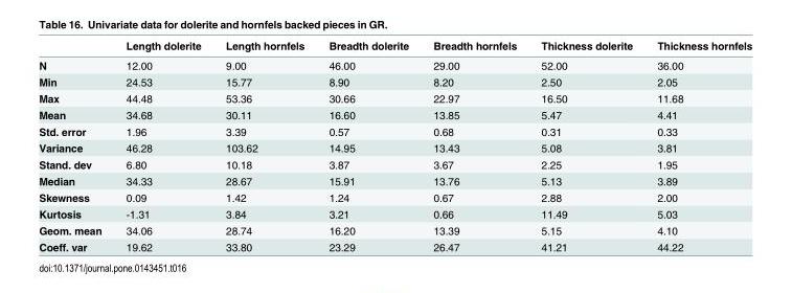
<table><thead><tr><td></td><td>Length dolerite</td><td>Length hornfels</td><td>Breadth dolerite</td><td>Breadth hornfels</td><td>Thickness dolerite</td><td>Thickness hornfels</td></tr></thead><tbody><tr><td>N</td><td>12.00</td><td>9.00</td><td>46.00</td><td>29.00</td><td>52.00</td><td>36.00</td></tr><tr><td>Min</td><td>24.53</td><td>15.77</td><td>8.90</td><td>8.20</td><td>2.50</td><td>2.05</td></tr><tr><td>Max</td><td>44.48</td><td>53.36</td><td>30.66</td><td>22.97</td><td>16.50</td><td>11.68</td></tr><tr><td>Mean</td><td>34.68</td><td>30.11</td><td>16.60</td><td>13.85</td><td>5.47</td><td>4.41</td></tr><tr><td>Std. error</td><td>1.96</td><td>3.39</td><td>0.57</td><td>0.68</td><td>0.31</td><td>0.33</td></tr><tr><td>Variance</td><td>46.28</td><td>103.62</td><td>14.95</td><td>13.43</td><td>5.08</td><td>3.81</td></tr><tr><td>Stand. dev</td><td>6.80</td><td>10.18</td><td>3.87</td><td>3.67</td><td>2.25</td><td>1.95</td></tr><tr><td>Median</td><td>34.33</td><td>28.67</td><td>15.91</td><td>13.76</td><td>5.13</td><td>3.89</td></tr><tr><td>Skewness</td><td>0.09</td><td>1.42</td><td>1.24</td><td>0.67</td><td>2.88</td><td>2.00</td></tr><tr><td>Kurtosis</td><td>-1.31</td><td>3.84</td><td>3.21</td><td>0.66</td><td>11.49</td><td>5.03</td></tr><tr><td>Geom. mean</td><td>34.06</td><td>28.74</td><td>16.20</td><td>13.39</td><td>5.15</td><td>4.10</td></tr><tr><td>Coeff. var</td><td>19.62</td><td>33.80</td><td>23.29</td><td>26.47</td><td>41.21</td><td>44.22</td></tr></tbody></table>